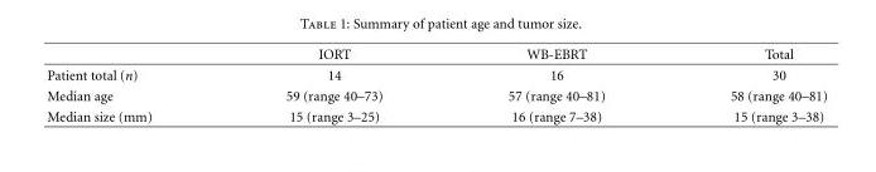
<table><thead><tr><td></td><td>IORT</td><td>WB-EBRT</td><td>Total</td></tr></thead><tbody><tr><td>Patient total (n)</td><td>14</td><td>16</td><td>30</td></tr><tr><td>Median age</td><td>59 (range 40–73)</td><td>57 (range 40–81)</td><td>58 (range 40–81)</td></tr><tr><td>Median size (mm)</td><td>15 (range 3–25)</td><td>16 (range 7–38)</td><td>15 (range 3–38)</td></tr></tbody></table>